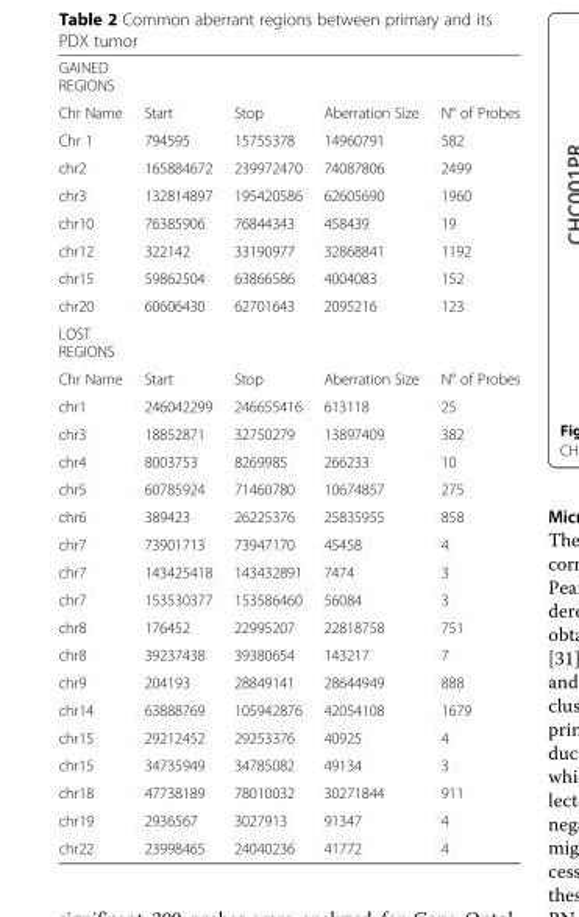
<table><tbody><tr><td colspan="5">GAINED REGIONS</td></tr><tr><td>Chr Name</td><td>Start</td><td>Stop</td><td>Aberration Size</td><td>N° of Probes</td></tr><tr><td>Chr 1</td><td>794595</td><td>15755378</td><td>14960791</td><td>582</td></tr><tr><td>chr2</td><td>165884672</td><td>239972470</td><td>74087806</td><td>2499</td></tr><tr><td>chr3</td><td>132814897</td><td>195420586</td><td>62605690</td><td>1960</td></tr><tr><td>chr10</td><td>76385906</td><td>76844343</td><td>458439</td><td>19</td></tr><tr><td>chr12</td><td>322142</td><td>33190977</td><td>32868841</td><td>1192</td></tr><tr><td>chr15</td><td>59862504</td><td>63866586</td><td>4004083</td><td>152</td></tr><tr><td>chr20</td><td>60606430</td><td>62701643</td><td>2095216</td><td>123</td></tr><tr><td colspan="5">LOST REGIONS</td></tr><tr><td>Chr Name</td><td>Start</td><td>Stop</td><td>Aberration Size</td><td>N° of Probes</td></tr><tr><td>chr1</td><td>246042299</td><td>246655416</td><td>613118</td><td>25</td></tr><tr><td>chr3</td><td>18852871</td><td>32750279</td><td>13897409</td><td>382</td></tr><tr><td>chr4</td><td>8003753</td><td>8269985</td><td>266233</td><td>10</td></tr><tr><td>chr5</td><td>60785924</td><td>71460780</td><td>10674857</td><td>275</td></tr><tr><td>chr6</td><td>389423</td><td>26225376</td><td>25835955</td><td>858</td></tr><tr><td>chr7</td><td>73901713</td><td>73947170</td><td>45458</td><td>4</td></tr><tr><td>chr7</td><td>143425418</td><td>143432891</td><td>7474</td><td>3</td></tr><tr><td>chr7</td><td>153530377</td><td>153586460</td><td>56084</td><td>3</td></tr><tr><td>chr8</td><td>176452</td><td>22995207</td><td>22818758</td><td>751</td></tr><tr><td>chr8</td><td>39237438</td><td>39380654</td><td>143217</td><td>7</td></tr><tr><td>chr9</td><td>204193</td><td>28849141</td><td>28644949</td><td>888</td></tr><tr><td>chr14</td><td>63888769</td><td>105942876</td><td>42054108</td><td>1679</td></tr><tr><td>chr15</td><td>29212452</td><td>29253376</td><td>40925</td><td>4</td></tr><tr><td>chr15</td><td>34735949</td><td>34785082</td><td>49134</td><td>3</td></tr><tr><td>chr18</td><td>47738189</td><td>78010032</td><td>30271844</td><td>911</td></tr><tr><td>chr19</td><td>2936567</td><td>3027913</td><td>91347</td><td>4</td></tr><tr><td>chr22</td><td>23998465</td><td>24040236</td><td>41772</td><td>4</td></tr></tbody></table>